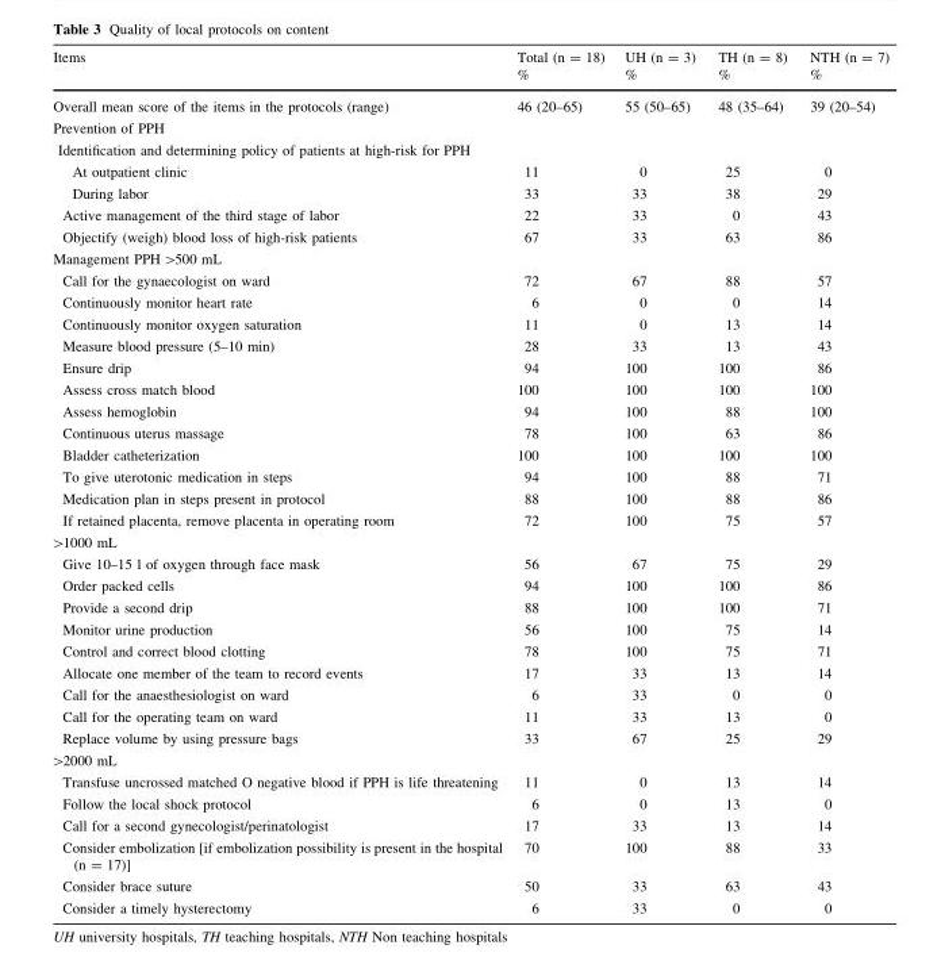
<table><thead><tr><td>Items</td><td>Total (n = 18) %</td><td>UH (n = 3) %</td><td>TH (n = 8) %</td><td>NTH (n = 7) %</td></tr></thead><tbody><tr><td>Overall mean score of the items in the protocols (range)</td><td>46 (20–65)</td><td>55 (50–65)</td><td>48 (35–64)</td><td>39 (20–54)</td></tr><tr><td colspan="5">Prevention of PPH</td></tr><tr><td colspan="5">Identification and determining policy of patients at high-risk for PPH</td></tr><tr><td>At outpatient clinic</td><td>11</td><td>0</td><td>25</td><td>0</td></tr><tr><td>During labor</td><td>33</td><td>33</td><td>38</td><td>29</td></tr><tr><td>Active management of the third stage of labor</td><td>22</td><td>33</td><td>0</td><td>43</td></tr><tr><td>Objectify (weigh) blood loss of high-risk patients</td><td>67</td><td>33</td><td>63</td><td>86</td></tr><tr><td colspan="5">Management PPH &gt;500 mL</td></tr><tr><td>Call for the gynaecologist on ward</td><td>72</td><td>67</td><td>88</td><td>57</td></tr><tr><td>Continuously monitor heart rate</td><td>6</td><td>0</td><td>0</td><td>14</td></tr><tr><td>Continuously monitor oxygen saturation</td><td>11</td><td>0</td><td>13</td><td>14</td></tr><tr><td>Measure blood pressure (5–10 min)</td><td>28</td><td>33</td><td>13</td><td>43</td></tr><tr><td>Ensure drip</td><td>94</td><td>100</td><td>100</td><td>86</td></tr><tr><td>Assess cross match blood</td><td>100</td><td>100</td><td>100</td><td>100</td></tr><tr><td>Assess hemoglobin</td><td>94</td><td>100</td><td>88</td><td>100</td></tr><tr><td>Continuous uterus massage</td><td>78</td><td>100</td><td>63</td><td>86</td></tr><tr><td>Bladder catheterization</td><td>100</td><td>100</td><td>100</td><td>100</td></tr><tr><td>To give uterotonic medication in steps</td><td>94</td><td>100</td><td>88</td><td>71</td></tr><tr><td>Medication plan in steps present in protocol</td><td>88</td><td>100</td><td>88</td><td>86</td></tr><tr><td>If retained placenta, remove placenta in operating room</td><td>72</td><td>100</td><td>75</td><td>57</td></tr><tr><td colspan="5">&gt;1000 mL</td></tr><tr><td>Give 10–15 l of oxygen through face mask</td><td>56</td><td>67</td><td>75</td><td>29</td></tr><tr><td>Order packed cells</td><td>94</td><td>100</td><td>100</td><td>86</td></tr><tr><td>Provide a second drip</td><td>88</td><td>100</td><td>100</td><td>71</td></tr><tr><td>Monitor urine production</td><td>56</td><td>100</td><td>75</td><td>14</td></tr><tr><td>Control and correct blood clotting</td><td>78</td><td>100</td><td>75</td><td>71</td></tr><tr><td>Allocate one member of the team to record events</td><td>17</td><td>33</td><td>13</td><td>14</td></tr><tr><td>Call for the anaesthesiologist on ward</td><td>6</td><td>33</td><td>0</td><td>0</td></tr><tr><td>Call for the operating team on ward</td><td>11</td><td>33</td><td>13</td><td>0</td></tr><tr><td>Replace volume by using pressure bags</td><td>33</td><td>67</td><td>25</td><td>29</td></tr><tr><td colspan="5">&gt;2000 mL</td></tr><tr><td>Transfuse uncrossed matched O negative blood if PPH is life threatening</td><td>11</td><td>0</td><td>13</td><td>14</td></tr><tr><td>Follow the local shock protocol</td><td>6</td><td>0</td><td>13</td><td>0</td></tr><tr><td>Call for a second gynecologist/perinatologist</td><td>17</td><td>33</td><td>13</td><td>14</td></tr><tr><td>Consider embolization [if embolization possibility is present in the hospital (n = 17)]</td><td>70</td><td>100</td><td>88</td><td>33</td></tr><tr><td>Consider brace suture</td><td>50</td><td>33</td><td>63</td><td>43</td></tr><tr><td>Consider a timely hysterectomy</td><td>6</td><td>33</td><td>0</td><td>0</td></tr></tbody></table>